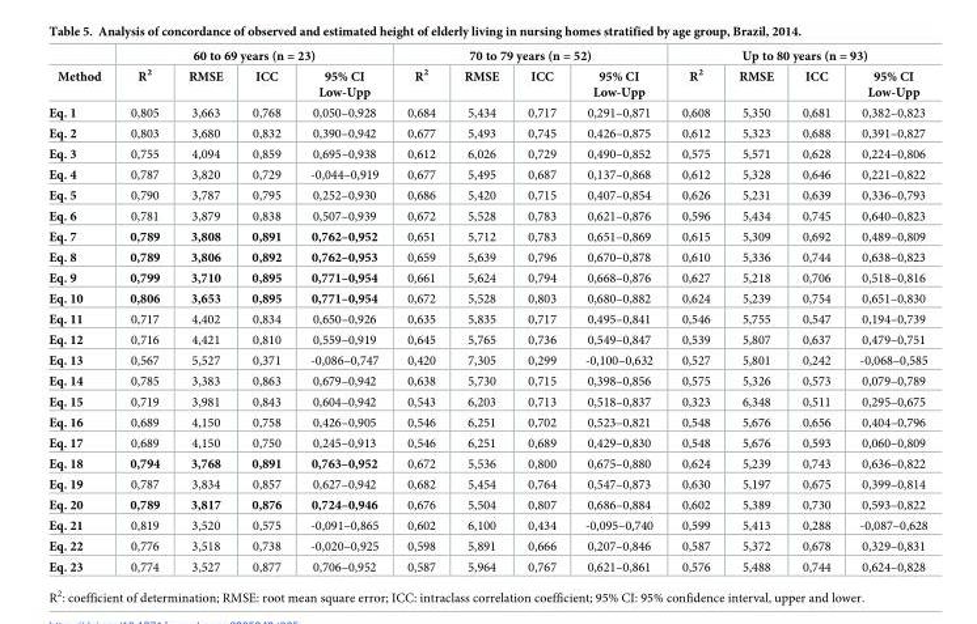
<table><thead><tr><td rowspan="2">Method</td><td colspan="4">60 to 69 years (n = 23)</td><td colspan="4">70 to 79 years (n = 52)</td><td colspan="4">Up to 80 years (n = 93)</td></tr><tr><td>R<sup>2</sup></td><td>RMSE</td><td>ICC</td><td>95% CI Low-Upp</td><td>R<sup>2</sup></td><td>RMSE</td><td>ICC</td><td>95% CI Low-Upp</td><td>R<sup>2</sup></td><td>RMSE</td><td>ICC</td><td>95% CI Low-Upp</td></tr></thead><tbody><tr><td>Eq. 1</td><td>0,805</td><td>3,663</td><td>0,768</td><td>0,050–0,928</td><td>0,684</td><td>5,434</td><td>0,717</td><td>0,291–0,871</td><td>0,608</td><td>5,350</td><td>0,681</td><td>0,382–0,823</td></tr><tr><td>Eq. 2</td><td>0,803</td><td>3,680</td><td>0,832</td><td>0,390–0,942</td><td>0,677</td><td>5,493</td><td>0,745</td><td>0,426–0,875</td><td>0,612</td><td>5,323</td><td>0,688</td><td>0,391–0,827</td></tr><tr><td>Eq. 3</td><td>0,755</td><td>4,094</td><td>0,859</td><td>0,695–0,938</td><td>0,612</td><td>6,026</td><td>0,729</td><td>0,490–0,852</td><td>0,575</td><td>5,571</td><td>0,628</td><td>0,224–0,806</td></tr><tr><td>Eq. 4</td><td>0,787</td><td>3,820</td><td>0,729</td><td>-0,044–0,919</td><td>0,677</td><td>5,495</td><td>0,687</td><td>0,137–0,868</td><td>0,612</td><td>5,328</td><td>0,646</td><td>0,221–0,822</td></tr><tr><td>Eq. 5</td><td>0,790</td><td>3,787</td><td>0,795</td><td>0,252–0,930</td><td>0,686</td><td>5,420</td><td>0,715</td><td>0,407–0,854</td><td>0,626</td><td>5,231</td><td>0,639</td><td>0,336–0,793</td></tr><tr><td>Eq. 6</td><td>0,781</td><td>3,879</td><td>0,838</td><td>0,507–0,939</td><td>0,672</td><td>5,528</td><td>0,783</td><td>0,621–0,876</td><td>0,596</td><td>5,434</td><td>0,745</td><td>0,640–0,823</td></tr><tr><td>Eq. 7</td><td>0,789</td><td>3,808</td><td>0,891</td><td>0,762–0,952</td><td>0,651</td><td>5,712</td><td>0,783</td><td>0,651–0,869</td><td>0,615</td><td>5,309</td><td>0,692</td><td>0,489–0,809</td></tr><tr><td>Eq. 8</td><td>0,789</td><td>3,806</td><td>0,892</td><td>0,762–0,953</td><td>0,659</td><td>5,639</td><td>0,796</td><td>0,670–0,878</td><td>0,610</td><td>5,336</td><td>0,744</td><td>0,638–0,823</td></tr><tr><td>Eq. 9</td><td>0,799</td><td>3,710</td><td>0,895</td><td>0,771–0,954</td><td>0,661</td><td>5,624</td><td>0,794</td><td>0,668–0,876</td><td>0,627</td><td>5,218</td><td>0,706</td><td>0,518–0,816</td></tr><tr><td>Eq. 10</td><td>0,806</td><td>3,653</td><td>0,895</td><td>0,771–0,954</td><td>0,672</td><td>5,528</td><td>0,803</td><td>0,680–0,882</td><td>0,624</td><td>5,239</td><td>0,754</td><td>0,651–0,830</td></tr><tr><td>Eq. 11</td><td>0,717</td><td>4,402</td><td>0,834</td><td>0,650–0,926</td><td>0,635</td><td>5,835</td><td>0,717</td><td>0,495–0,841</td><td>0,546</td><td>5,755</td><td>0,547</td><td>0,194–0,739</td></tr><tr><td>Eq. 12</td><td>0,716</td><td>4,421</td><td>0,810</td><td>0,559–0,919</td><td>0,645</td><td>5,765</td><td>0,736</td><td>0,549–0,847</td><td>0,539</td><td>5,807</td><td>0,637</td><td>0,479–0,751</td></tr><tr><td>Eq. 13</td><td>0,567</td><td>5,527</td><td>0,371</td><td>-0,086–0,747</td><td>0,420</td><td>7,305</td><td>0,299</td><td>-0,100–0,632</td><td>0,527</td><td>5,801</td><td>0,242</td><td>-0,068–0,585</td></tr><tr><td>Eq. 14</td><td>0,785</td><td>3,383</td><td>0,863</td><td>0,679–0,942</td><td>0,638</td><td>5,730</td><td>0,715</td><td>0,398–0,856</td><td>0,575</td><td>5,326</td><td>0,573</td><td>0,079–0,789</td></tr><tr><td>Eq. 15</td><td>0,719</td><td>3,981</td><td>0,843</td><td>0,604–0,942</td><td>0,543</td><td>6,203</td><td>0,713</td><td>0,518–0,837</td><td>0,323</td><td>6,348</td><td>0,511</td><td>0,295–0,675</td></tr><tr><td>Eq. 16</td><td>0,689</td><td>4,150</td><td>0,758</td><td>0,426–0,905</td><td>0,546</td><td>6,251</td><td>0,702</td><td>0,523–0,821</td><td>0,548</td><td>5,676</td><td>0,656</td><td>0,404–0,796</td></tr><tr><td>Eq. 17</td><td>0,689</td><td>4,150</td><td>0,750</td><td>0,245–0,913</td><td>0,546</td><td>6,251</td><td>0,689</td><td>0,429–0,830</td><td>0,548</td><td>5,676</td><td>0,593</td><td>0,060–0,809</td></tr><tr><td>Eq. 18</td><td>0,794</td><td>3,768</td><td>0,891</td><td>0,763–0,952</td><td>0,672</td><td>5,536</td><td>0,800</td><td>0,675–0,880</td><td>0,624</td><td>5,239</td><td>0,743</td><td>0,636–0,822</td></tr><tr><td>Eq. 19</td><td>0,787</td><td>3,834</td><td>0,857</td><td>0,627–0,942</td><td>0,682</td><td>5,454</td><td>0,764</td><td>0,547–0,873</td><td>0,630</td><td>5,197</td><td>0,675</td><td>0,399–0,814</td></tr><tr><td>Eq. 20</td><td>0,789</td><td>3,817</td><td>0,876</td><td>0,724–0,946</td><td>0,676</td><td>5,504</td><td>0,807</td><td>0,686–0,884</td><td>0,602</td><td>5,389</td><td>0,730</td><td>0,593–0,822</td></tr><tr><td>Eq. 21</td><td>0,819</td><td>3,520</td><td>0,575</td><td>-0,091–0,865</td><td>0,602</td><td>6,100</td><td>0,434</td><td>-0,095–0,740</td><td>0,599</td><td>5,413</td><td>0,288</td><td>-0,087–0,628</td></tr><tr><td>Eq. 22</td><td>0,776</td><td>3,518</td><td>0,738</td><td>-0,020–0,925</td><td>0,598</td><td>5,891</td><td>0,666</td><td>0,207–0,846</td><td>0,587</td><td>5,372</td><td>0,678</td><td>0,329–0,831</td></tr><tr><td>Eq. 23</td><td>0,774</td><td>3,527</td><td>0,877</td><td>0,706–0,952</td><td>0,587</td><td>5,964</td><td>0,767</td><td>0,621–0,861</td><td>0,576</td><td>5,488</td><td>0,744</td><td>0,624–0,828</td></tr></tbody></table>